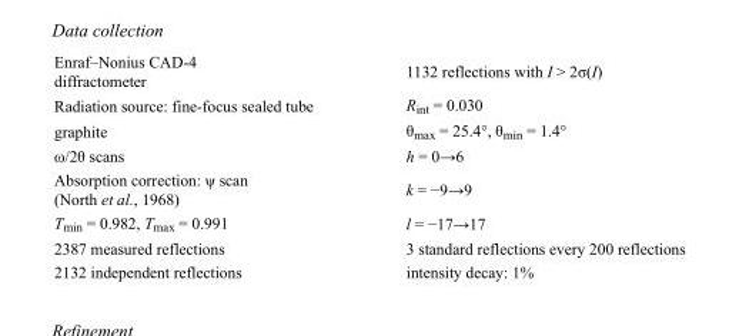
<table><tbody><tr><td>Enraf–Nonius CAD-4 diffractometer</td><td>1132 reflections with I &gt; 2σ(I)</td></tr><tr><td>Radiation source: fine-focus sealed tube</td><td>R<sub>int</sub> = 0.030</td></tr><tr><td>graphite</td><td>θ<sub>max</sub> = 25.4°, θ<sub>min</sub> = 1.4°</td></tr><tr><td>ω/2θ scans</td><td>h = 0→6</td></tr><tr><td>Absorption correction: ψ scan (North et al., 1968)</td><td>k = −9→9</td></tr><tr><td>T<sub>min</sub> = 0.982, T<sub>max</sub> = 0.991</td><td>l = −17→17</td></tr><tr><td>2387 measured reflections</td><td>3 standard reflections every 200 reflections</td></tr><tr><td>2132 independent reflections</td><td>intensity decay: 1%</td></tr></tbody></table>